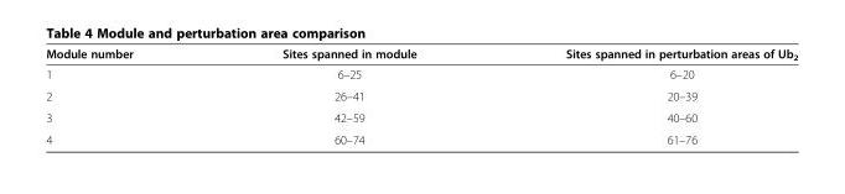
<table><thead><tr><td>Module number</td><td>Sites spanned in module</td><td>Sites spanned in perturbation areas of Ub<sub>2</sub></td></tr></thead><tbody><tr><td>1</td><td>6–25</td><td>6–20</td></tr><tr><td>2</td><td>26–41</td><td>20–39</td></tr><tr><td>3</td><td>42–59</td><td>40–60</td></tr><tr><td>4</td><td>60–74</td><td>61–76</td></tr></tbody></table>